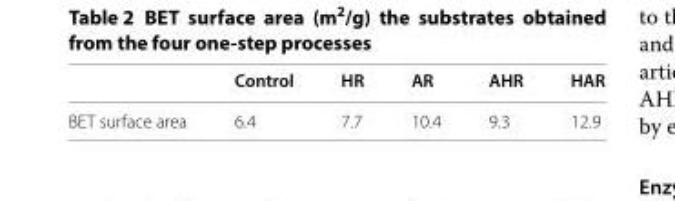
<table><thead><tr><td></td><td>Control</td><td>HR</td><td>AR</td><td>AHR</td><td>HAR</td></tr></thead><tbody><tr><td>BET surface area</td><td>6.4</td><td>7.7</td><td>10.4</td><td>9.3</td><td>12.9</td></tr></tbody></table>